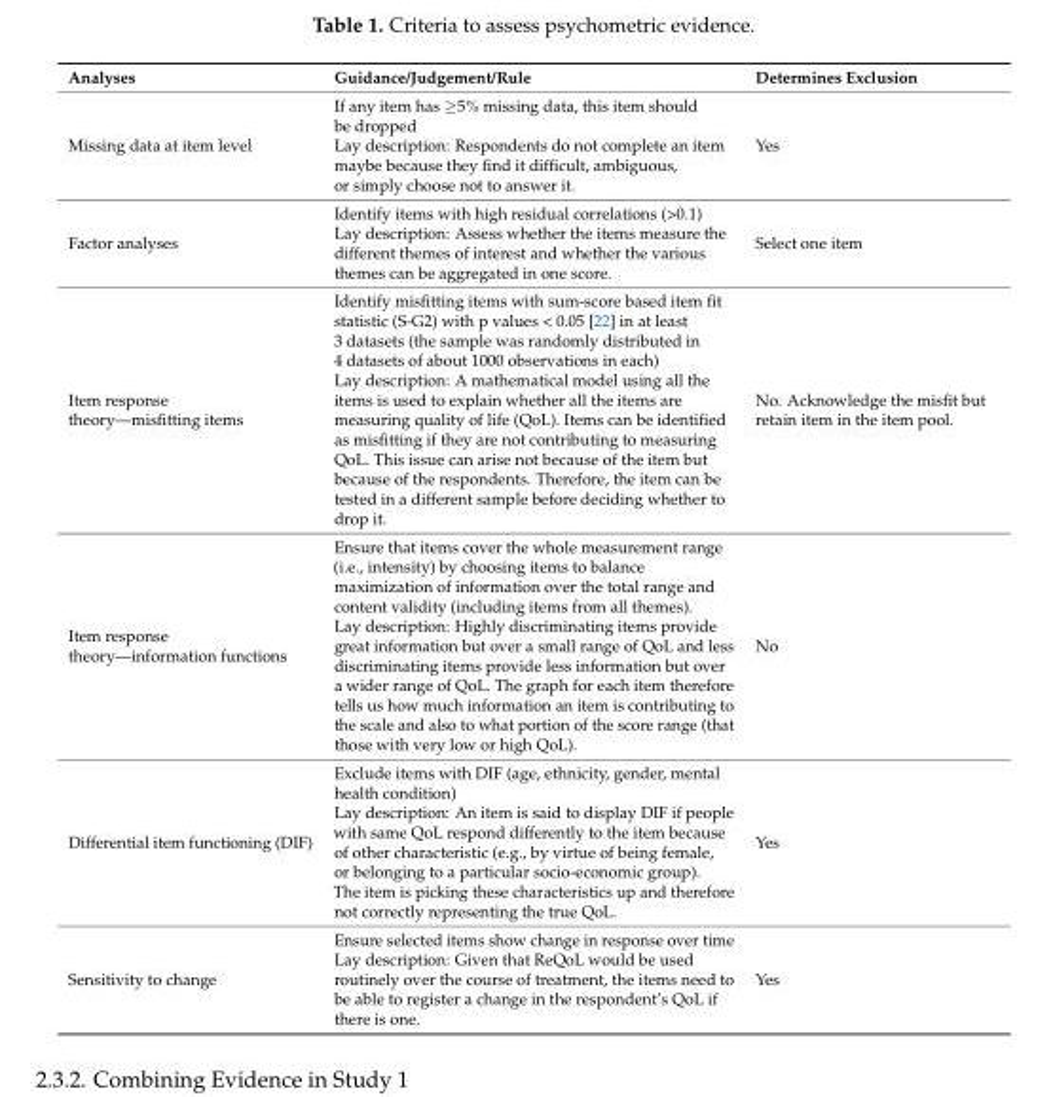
<table><thead><tr><td>Analyses</td><td>Guidance/Judgement/Rule</td><td>Determines Exclusion</td></tr></thead><tbody><tr><td>Missing data at item level</td><td>If any item has ≥5% missing data, this item should be dropped Lay description: Respondents do not complete an item maybe because they find it difficult, ambiguous, or simply choose not to answer it.</td><td>Yes</td></tr><tr><td>Factor analyses</td><td>Identify items with high residual correlations (&gt;0.1) Lay description: Assess whether the items measure the different themes of interest and whether the various themes can be aggregated in one score.</td><td>Select one item</td></tr><tr><td>Item response theory—misfitting items</td><td>Identify misfitting items with sum-score based item fit statistic (S-G2) with p values &lt; 0.05 [22] in at least 3 datasets (the sample was randomly distributed in 4 datasets of about 1000 observations in each) Lay description: A mathematical model using all the items is used to explain whether all the items are measuring quality of life (QoL). Items can be identified as misfitting if they are not contributing to measuring QoL. This issue can arise not because of the item but because of the respondents. Therefore, the item can be tested in a different sample before deciding whether to drop it.</td><td>No. Acknowledge the misfit but retain item in the item pool.</td></tr><tr><td>Item response theory—information functions</td><td>Ensure that items cover the whole measurement range (i.e., intensity) by choosing items to balance maximization of information over the total range and content validity (including items from all themes). Lay description: Highly discriminating items provide great information but over a small range of QoL and less discriminating items provide less information but over a wider range of QoL. The graph for each item therefore tells us how much information an item is contributing to the scale and also to what portion of the score range (that those with very low or high QoL).</td><td>No</td></tr><tr><td>Differential item functioning (DIF)</td><td>Exclude items with DIF (age, ethnicity, gender, mental health condition) Lay description: An item is said to display DIF if people with same QoL respond differently to the item because of other characteristic (e.g., by virtue of being female, or belonging to a particular socio-economic group). The item is picking these characteristics up and therefore not correctly representing the true QoL.</td><td>Yes</td></tr><tr><td>Sensitivity to change</td><td>Ensure selected items show change in response over time Lay description: Given that ReQoL would be used routinely over the course of treatment, the items need to be able to register a change in the respondent’s QoL if there is one.</td><td>Yes</td></tr></tbody></table>